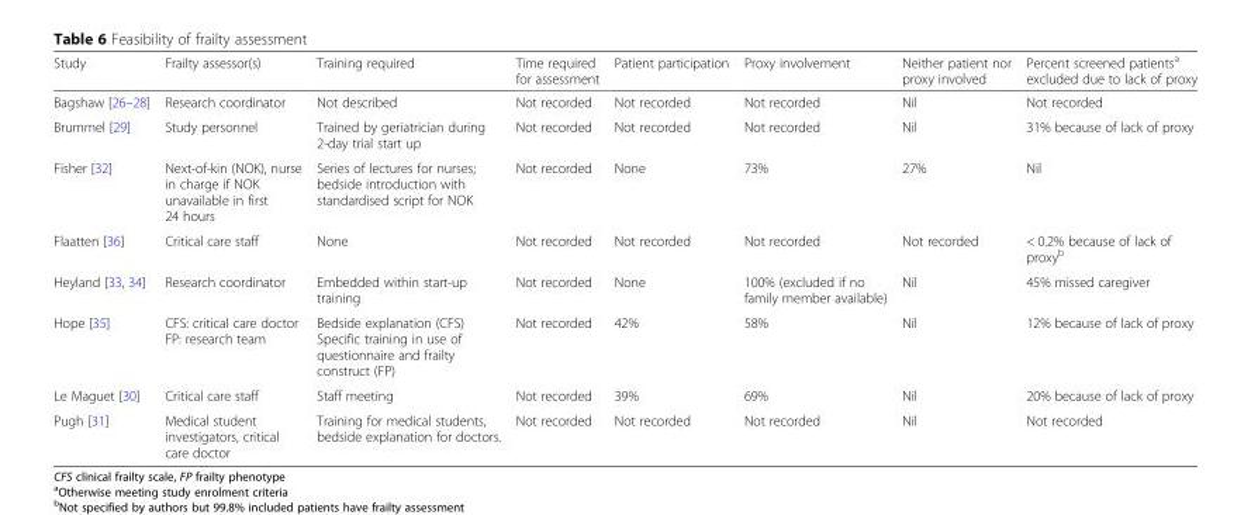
<table><thead><tr><td>Study</td><td>Frailty assessor(s)</td><td>Training required</td><td>Time required for assessment</td><td>Patient participation</td><td>Proxy involvement</td><td>Neither patient nor proxy involved</td><td>Percent screened patients<sup>a</sup> excluded due to lack of proxy</td></tr></thead><tbody><tr><td>Bagshaw [26–28]</td><td>Research coordinator</td><td>Not described</td><td>Not recorded</td><td>Not recorded</td><td>Not recorded</td><td>Nil</td><td>Not recorded</td></tr><tr><td>Brummel [29]</td><td>Study personnel</td><td>Trained by geriatrician during 2-day trial start up</td><td>Not recorded</td><td>Not recorded</td><td>Not recorded</td><td>Nil</td><td>31% because of lack of proxy</td></tr><tr><td>Fisher [32]</td><td>Next-of-kin (NOK), nurse in charge if NOK unavailable in first 24 hours</td><td>Series of lectures for nurses; bedside introduction with standardised script for NOK</td><td>Not recorded</td><td>None</td><td>73%</td><td>27%</td><td>Nil</td></tr><tr><td>Flaatten [36]</td><td>Critical care staff</td><td>None</td><td>Not recorded</td><td>Not recorded</td><td>Not recorded</td><td>Not recorded</td><td>&lt; 0.2% because of lack of proxy<sup>b</sup></td></tr><tr><td>Heyland [33, 34]</td><td>Research coordinator</td><td>Embedded within start-up training</td><td>Not recorded</td><td>None</td><td>100% (excluded if no family member available)</td><td>Nil</td><td>45% missed caregiver</td></tr><tr><td>Hope [35]</td><td>CFS: critical care doctor FP: research team</td><td>Bedside explanation (CFS) Specific training in use of questionnaire and frailty construct (FP)</td><td>Not recorded</td><td>42%</td><td>58%</td><td>Nil</td><td>12% because of lack of proxy</td></tr><tr><td>Le Maguet [30]</td><td>Critical care staff</td><td>Staff meeting</td><td>Not recorded</td><td>39%</td><td>69%</td><td>Nil</td><td>20% because of lack of proxy</td></tr><tr><td>Pugh [31]</td><td>Medical student investigators, critical care doctor</td><td>Training for medical students, bedside explanation for doctors.</td><td>Not recorded</td><td>Not recorded</td><td>Not recorded</td><td>Nil</td><td>Not recorded</td></tr></tbody></table>